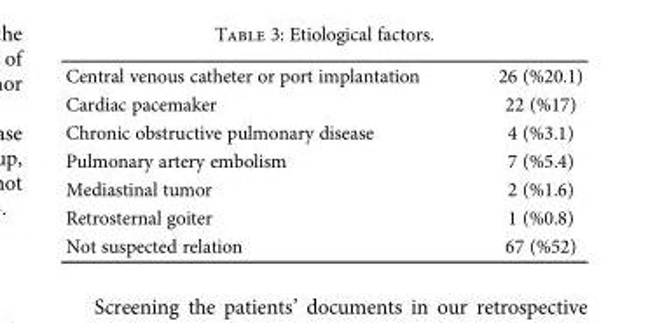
<table><tbody><tr><td>Central venous catheter or port implantation</td><td>26 (%20.1)</td></tr><tr><td>Cardiac pacemaker</td><td>22 (%17)</td></tr><tr><td>Chronic obstructive pulmonary disease</td><td>4 (%3.1)</td></tr><tr><td>Pulmonary artery embolism</td><td>7 (%5.4)</td></tr><tr><td>Mediastinal tumor</td><td>2 (%1.6)</td></tr><tr><td>Retrosternal goiter</td><td>1 (%0.8)</td></tr><tr><td>Not suspected relation</td><td>67 (%52)</td></tr></tbody></table>